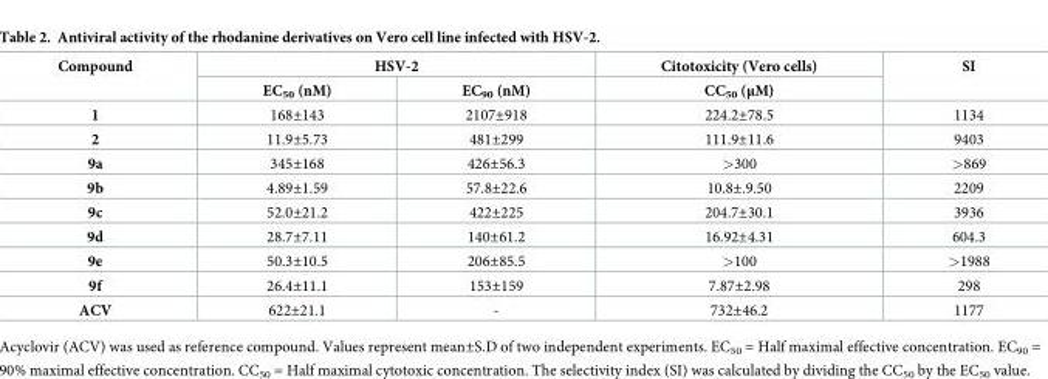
<table><thead><tr><td rowspan="2">Compound</td><td colspan="2">HSV-2</td><td rowspan="2">Citotoxicity (Vero cells) CC<sub>50</sub> (μM)</td><td rowspan="2">SI</td></tr><tr><td>EC<sub>50</sub> (nM)</td><td>EC<sub>90</sub> (nM)</td></tr></thead><tbody><tr><td>1</td><td>168±143</td><td>2107±918</td><td>224.2±78.5</td><td>1134</td></tr><tr><td>2</td><td>11.9±5.73</td><td>481±299</td><td>111.9±11.6</td><td>9403</td></tr><tr><td>9a</td><td>345±168</td><td>426±56.3</td><td>&gt;300</td><td>&gt;869</td></tr><tr><td>9b</td><td>4.89±1.59</td><td>57.8±22.6</td><td>10.8±.9.50</td><td>2209</td></tr><tr><td>9c</td><td>52.0±21.2</td><td>422±225</td><td>204.7±30.1</td><td>3936</td></tr><tr><td>9d</td><td>28.7±7.11</td><td>140±61.2</td><td>16.92±4.31</td><td>604.3</td></tr><tr><td>9e</td><td>50.3±10.5</td><td>206±85.5</td><td>&gt;100</td><td>&gt;1988</td></tr><tr><td>9f</td><td>26.4±11.1</td><td>153±159</td><td>7.87±2.98</td><td>298</td></tr><tr><td>ACV</td><td>622±21.1</td><td>-</td><td>732±46.2</td><td>1177</td></tr></tbody></table>